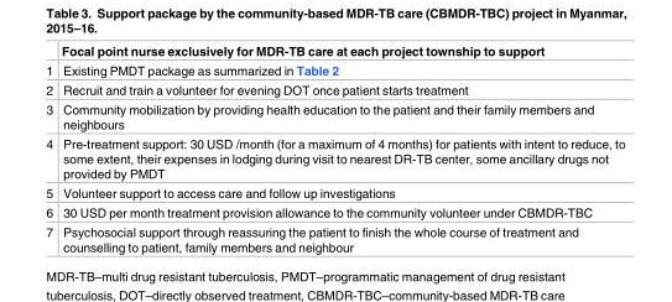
<table><thead><tr><td></td><td>Focal point nurse exclusively for MDR-TB care at each project township to support</td></tr></thead><tbody><tr><td>1</td><td>Existing PMDT package as summarized in Table 2</td></tr><tr><td>2</td><td>Recruit and train a volunteer for evening DOT once patient starts treatment</td></tr><tr><td>3</td><td>Community mobilization by providing health education to the patient and their family members and neighbours</td></tr><tr><td>4</td><td>Pre-treatment support: 30 USD /month (for a maximum of 4 months) for patients with intent to reduce, to some extent, their expenses in lodging during visit to nearest DR-TB center, some ancillary drugs not provided by PMDT</td></tr><tr><td>5</td><td>Volunteer support to access care and follow up investigations</td></tr><tr><td>6</td><td>30 USD per month treatment provision allowance to the community volunteer under CBMDR-TBC</td></tr><tr><td>7</td><td>Psychosocial support through reassuring the patient to finish the whole course of treatment and counselling to patient, family members and neighbour</td></tr></tbody></table>